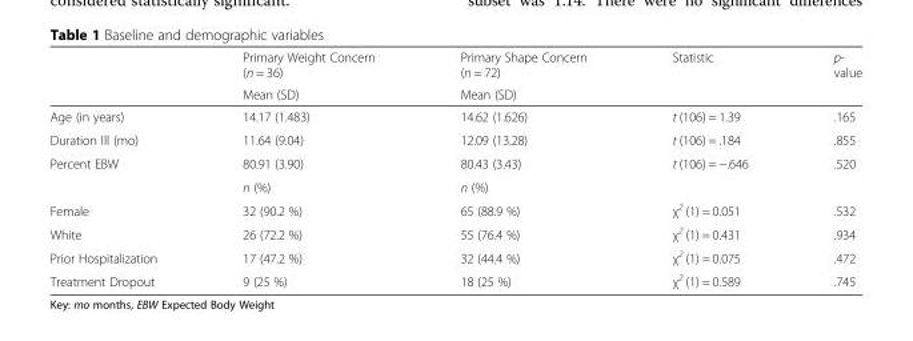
<table><thead><tr><td rowspan="2"></td><td rowspan="2">Primary Weight Concern (n = 36) Mean (SD)</td><td rowspan="2">Primary Shape Concern (n = 72) Mean (SD)</td><td rowspan="2">Statistic</td><td rowspan="2">p- value</td></tr><tr></tr></thead><tbody><tr><td>Age (in years)</td><td>14.17 (1.483)</td><td>14.62 (1.626)</td><td>t (106) = 1.39</td><td>.165</td></tr><tr><td>Duration Ill (mo)</td><td>11.64 (9.04)</td><td>12.09 (13.28)</td><td>t (106) = .184</td><td>.855</td></tr><tr><td rowspan="2">Percent EBW</td><td>80.91 (3.90)</td><td>80.43 (3.43)</td><td>t (106) = −.646</td><td>.520</td></tr><tr><td>n (%)</td><td>n (%)</td><td colspan="2"></td></tr><tr><td>Female</td><td>32 (90.2 %)</td><td>65 (88.9 %)</td><td>χ<sup>2</sup> (1) = 0.051</td><td>.532</td></tr><tr><td>White</td><td>26 (72.2 %)</td><td>55 (76.4 %)</td><td>χ<sup>2</sup> (1) = 0.431</td><td>.934</td></tr><tr><td>Prior Hospitalization</td><td>17 (47.2 %)</td><td>32 (44.4 %)</td><td>χ<sup>2</sup> (1) = 0.075</td><td>.472</td></tr><tr><td>Treatment Dropout</td><td>9 (25 %)</td><td>18 (25 %)</td><td>χ<sup>2</sup> (1) = 0.589</td><td>.745</td></tr></tbody></table>